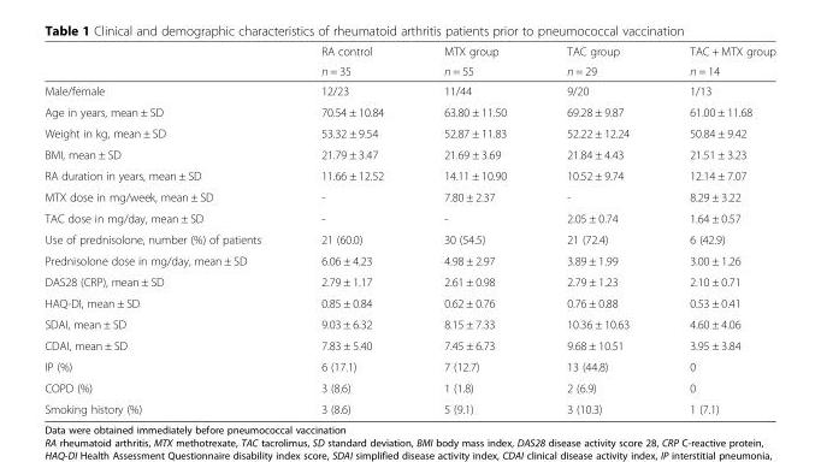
<table><thead><tr><td rowspan="2"></td><td rowspan="2">RA control n = 35</td><td rowspan="2">MTX group n = 55</td><td rowspan="2">TAC group n = 29</td><td rowspan="2">TAC + MTX group n = 14</td></tr><tr></tr></thead><tbody><tr><td>Male/female</td><td>12/23</td><td>11/44</td><td>9/20</td><td>1/13</td></tr><tr><td>Age in years, mean ± SD</td><td>70.54 ± 10.84</td><td>63.80 ± 11.50</td><td>69.28 ± 9.87</td><td>61.00 ± 11.68</td></tr><tr><td>Weight in kg, mean ± SD</td><td>53.32 ± 9.54</td><td>52.87 ± 11.83</td><td>52.22 ± 12.24</td><td>50.84 ± 9.42</td></tr><tr><td>BMI, mean ± SD</td><td>21.79 ± 3.47</td><td>21.69 ± 3.69</td><td>21.84 ± 4.43</td><td>21.51 ± 3.23</td></tr><tr><td>RA duration in years, mean ± SD</td><td>11.66 ± 12.52</td><td>14.11 ± 10.90</td><td>10.52 ± 9.74</td><td>12.14 ± 7.07</td></tr><tr><td>MTX dose in mg/week, mean ± SD</td><td>-</td><td>7.80 ± 2.37</td><td>-</td><td>8.29 ± 3.22</td></tr><tr><td>TAC dose in mg/day, mean ± SD</td><td>-</td><td>-</td><td>2.05 ± 0.74</td><td>1.64 ± 0.57</td></tr><tr><td>Use of prednisolone, number (%) of patients</td><td>21 (60.0)</td><td>30 (54.5)</td><td>21 (72.4)</td><td>6 (42.9)</td></tr><tr><td>Prednisolone dose in mg/day, mean ± SD</td><td>6.06 ± 4.23</td><td>4.98 ± 2.97</td><td>3.89 ± 1.99</td><td>3.00 ± 1.26</td></tr><tr><td>DAS28 (CRP), mean ± SD</td><td>2.79 ± 1.17</td><td>2.61 ± 0.98</td><td>2.79 ± 1.23</td><td>2.10 ± 0.71</td></tr><tr><td>HAQ-DI, mean ± SD</td><td>0.85 ± 0.84</td><td>0.62 ± 0.76</td><td>0.76 ± 0.88</td><td>0.53 ± 0.41</td></tr><tr><td>SDAI, mean ± SD</td><td>9.03 ± 6.32</td><td>8.15 ± 7.33</td><td>10.36 ± 10.63</td><td>4.60 ± 4.06</td></tr><tr><td>CDAI, mean ± SD</td><td>7.83 ± 5.40</td><td>7.45 ± 6.73</td><td>9.68 ± 10.51</td><td>3.95 ± 3.84</td></tr><tr><td>IP (%)</td><td>6 (17.1)</td><td>7 (12.7)</td><td>13 (44.8)</td><td>0</td></tr><tr><td>COPD (%)</td><td>3 (8.6)</td><td>1 (1.8)</td><td>2 (6.9)</td><td>0</td></tr><tr><td>Smoking history (%)</td><td>3 (8.6)</td><td>5 (9.1)</td><td>3 (10.3)</td><td>1 (7.1)</td></tr></tbody></table>